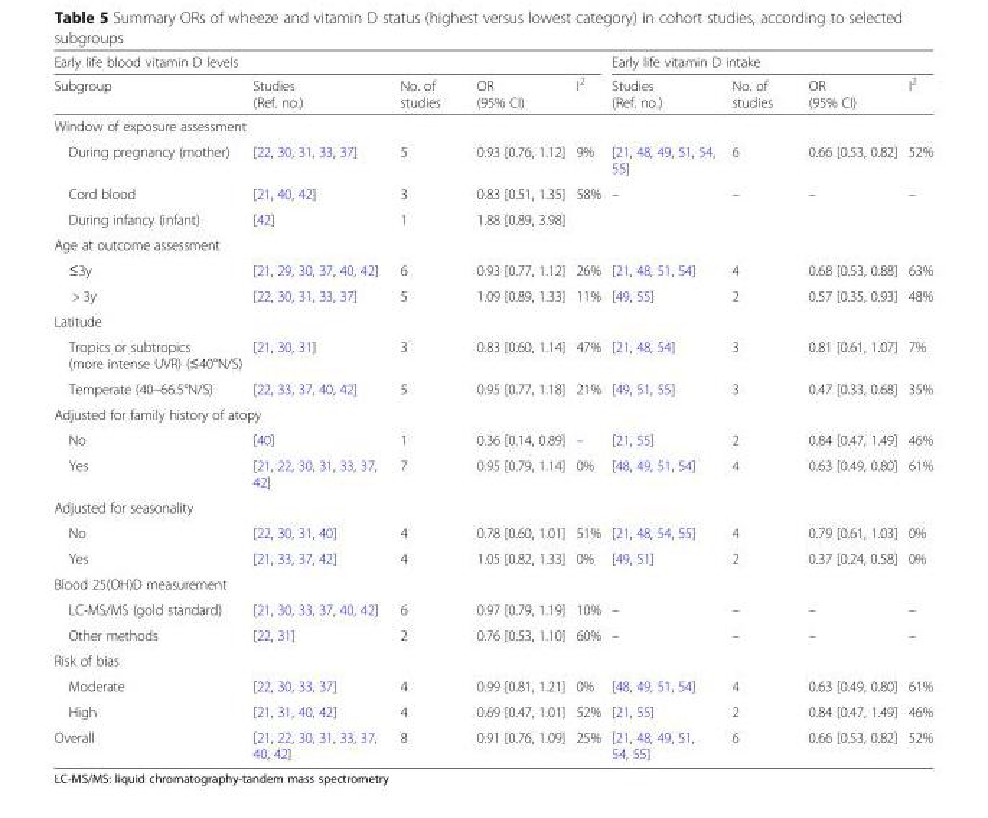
<table><thead><tr><td colspan="5">Early life blood vitamin D levels</td><td colspan="4">Early life vitamin D intake</td></tr><tr><td>Subgroup</td><td>Studies (Ref. no.)</td><td>No. of studies</td><td>OR (95% CI)</td><td>I<sup>2</sup></td><td>Studies (Ref. no.)</td><td>No. of studies</td><td>OR (95% CI)</td><td>I<sup>2</sup></td></tr></thead><tbody><tr><td colspan="9">Window of exposure assessment</td></tr><tr><td>During pregnancy (mother)</td><td>[22, 30, 31, 33, 37]</td><td>5</td><td>0.93 [0.76, 1.12]</td><td>9%</td><td>[21, 48, 49, 51, 54, 55]</td><td>6</td><td>0.66 [0.53, 0.82]</td><td>52%</td></tr><tr><td>Cord blood</td><td>[21, 40, 42]</td><td>3</td><td>0.83 [0.51, 1.35]</td><td>58%</td><td>–</td><td>–</td><td>–</td><td>–</td></tr><tr><td>During infancy (infant)</td><td>[42]</td><td>1</td><td>1.88 [0.89, 3.98]</td><td></td><td></td><td></td><td></td><td></td></tr><tr><td colspan="9">Age at outcome assessment</td></tr><tr><td>≤3y</td><td>[21, 29, 30, 37, 40, 42]</td><td>6</td><td>0.93 [0.77, 1.12]</td><td>26%</td><td>[21, 48, 51, 54]</td><td>4</td><td>0.68 [0.53, 0.88]</td><td>63%</td></tr><tr><td>&gt; 3y</td><td>[22, 30, 31, 33, 37]</td><td>5</td><td>1.09 [0.89, 1.33]</td><td>11%</td><td>[49, 55]</td><td>2</td><td>0.57 [0.35, 0.93]</td><td>48%</td></tr><tr><td colspan="9">Latitude</td></tr><tr><td>Tropics or subtropics (more intense UVR) (≤40°N/S)</td><td>[21, 30, 31]</td><td>3</td><td>0.83 [0.60, 1.14]</td><td>47%</td><td>[21, 48, 54]</td><td>3</td><td>0.81 [0.61, 1.07]</td><td>7%</td></tr><tr><td>Temperate (40–66.5°N/S)</td><td>[22, 33, 37, 40, 42]</td><td>5</td><td>0.95 [0.77, 1.18]</td><td>21%</td><td>[49, 51, 55]</td><td>3</td><td>0.47 [0.33, 0.68]</td><td>35%</td></tr><tr><td colspan="9">Adjusted for family history of atopy</td></tr><tr><td>No</td><td>[40]</td><td>1</td><td>0.36 [0.14, 0.89]</td><td>–</td><td>[21, 55]</td><td>2</td><td>0.84 [0.47, 1.49]</td><td>46%</td></tr><tr><td>Yes</td><td>[21, 22, 30, 31, 33, 37, 42]</td><td>7</td><td>0.95 [0.79, 1.14]</td><td>0%</td><td>[48, 49, 51, 54]</td><td>4</td><td>0.63 [0.49, 0.80]</td><td>61%</td></tr><tr><td colspan="9">Adjusted for seasonality</td></tr><tr><td>No</td><td>[22, 30, 31, 40]</td><td>4</td><td>0.78 [0.60, 1.01]</td><td>51%</td><td>[21, 48, 54, 55]</td><td>4</td><td>0.79 [0.61, 1.03]</td><td>0%</td></tr><tr><td>Yes</td><td>[21, 33, 37, 42]</td><td>4</td><td>1.05 [0.82, 1.33]</td><td>0%</td><td>[49, 51]</td><td>2</td><td>0.37 [0.24, 0.58]</td><td>0%</td></tr><tr><td colspan="9">Blood 25(OH)D measurement</td></tr><tr><td>LC-MS/MS (gold standard)</td><td>[21, 30, 33, 37, 40, 42]</td><td>6</td><td>0.97 [0.79, 1.19]</td><td>10%</td><td>–</td><td>–</td><td>–</td><td>–</td></tr><tr><td>Other methods</td><td>[22, 31]</td><td>2</td><td>0.76 [0.53, 1.10]</td><td>60%</td><td>–</td><td>–</td><td>–</td><td>–</td></tr><tr><td colspan="9">Risk of bias</td></tr><tr><td>Moderate</td><td>[22, 30, 33, 37]</td><td>4</td><td>0.99 [0.81, 1.21]</td><td>0%</td><td>[48, 49, 51, 54]</td><td>4</td><td>0.63 [0.49, 0.80]</td><td>61%</td></tr><tr><td>High</td><td>[21, 31, 40, 42]</td><td>4</td><td>0.69 [0.47, 1.01]</td><td>52%</td><td>[21, 55]</td><td>2</td><td>0.84 [0.47, 1.49]</td><td>46%</td></tr><tr><td>Overall</td><td>[21, 22, 30, 31, 33, 37, 40, 42]</td><td>8</td><td>0.91 [0.76, 1.09]</td><td>25%</td><td>[21, 48, 49, 51, 54, 55]</td><td>6</td><td>0.66 [0.53, 0.82]</td><td>52%</td></tr></tbody></table>